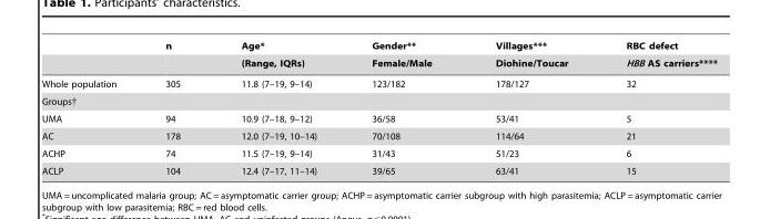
<table><thead><tr><td rowspan="2"></td><td rowspan="2">n</td><td rowspan="2">Age* (Range, IQRs)</td><td rowspan="2">Gender** Female/Male</td><td rowspan="2">Villages*** Diohine/Toucar</td><td rowspan="2">RBC defect HBB AS carriers****</td></tr><tr></tr></thead><tbody><tr><td>Whole population</td><td>305</td><td>11.8 (7–19, 9–14)</td><td>123/182</td><td>178/127</td><td>32</td></tr><tr><td colspan="6">Groups†</td></tr><tr><td>UMA</td><td>94</td><td>10.9 (7–18, 9–12)</td><td>36/58</td><td>53/41</td><td>5</td></tr><tr><td>AC</td><td>178</td><td>12.0 (7–19, 10–14)</td><td>70/108</td><td>114/64</td><td>21</td></tr><tr><td>ACHP</td><td>74</td><td>11.5 (7–19, 9–14)</td><td>31/43</td><td>51/23</td><td>6</td></tr><tr><td>ACLP</td><td>104</td><td>12.4 (7–17, 11–14)</td><td>39/65</td><td>63/41</td><td>15</td></tr></tbody></table>